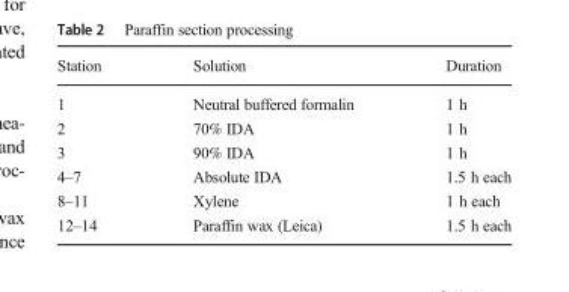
<table><thead><tr><td>Station</td><td>Solution</td><td>Duration</td></tr></thead><tbody><tr><td>1</td><td>Neutral buffered formalin</td><td>1 h</td></tr><tr><td>2</td><td>70% IDA</td><td>1 h</td></tr><tr><td>3</td><td>90% IDA</td><td>1 h</td></tr><tr><td>4–7</td><td>Absolute IDA</td><td>1.5 h each</td></tr><tr><td>8–11</td><td>Xylene</td><td>1 h each</td></tr><tr><td>12–14</td><td>Paraffin wax (Leica)</td><td>1.5 h each</td></tr></tbody></table>